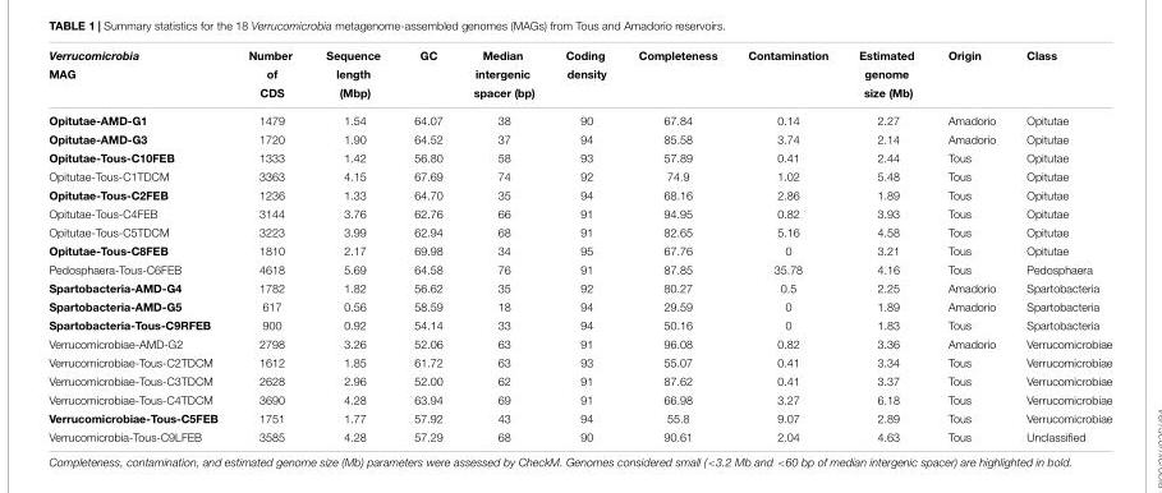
<table><thead><tr><td rowspan="3">Verrucomicrobia MAG</td><td rowspan="3">Number of CDS</td><td rowspan="3">Sequence length (Mbp)</td><td rowspan="3">GC</td><td rowspan="3">Median intergenic spacer (bp)</td><td rowspan="3">Coding density</td><td rowspan="3">Completeness</td><td rowspan="3">Contamination</td><td rowspan="3">Estimated genome size (Mb)</td><td rowspan="3">Origin</td><td rowspan="3">Class</td></tr><tr></tr><tr></tr></thead><tbody><tr><td>Opitutae-AMD-G1</td><td>1479</td><td>1.54</td><td>64.07</td><td>38</td><td>90</td><td>67.84</td><td>0.14</td><td>2.27</td><td>Amadorio</td><td>Opitutae</td></tr><tr><td>Opitutae-AMD-G3</td><td>1720</td><td>1.90</td><td>64.52</td><td>37</td><td>94</td><td>85.58</td><td>3.74</td><td>2.14</td><td>Amadorio</td><td>Opitutae</td></tr><tr><td>Opitutae-Tous-C10FEB</td><td>1333</td><td>1.42</td><td>56.80</td><td>58</td><td>93</td><td>57.89</td><td>0.41</td><td>2.44</td><td>Tous</td><td>Opitutae</td></tr><tr><td>Opitutae-Tous-C1TDCM</td><td>3363</td><td>4.15</td><td>67.69</td><td>74</td><td>92</td><td>74.9</td><td>1.02</td><td>5.48</td><td>Tous</td><td>Opitutae</td></tr><tr><td>Opitutae-Tous-C2FEB</td><td>1236</td><td>1.33</td><td>64.70</td><td>35</td><td>94</td><td>68.16</td><td>2.86</td><td>1.89</td><td>Tous</td><td>Opitutae</td></tr><tr><td>Opitutae-Tous-C4FEB</td><td>3144</td><td>3.76</td><td>62.76</td><td>66</td><td>91</td><td>94.95</td><td>0.82</td><td>3.93</td><td>Tous</td><td>Opitutae</td></tr><tr><td>Opitutae-Tous-C5TDCM</td><td>3223</td><td>3.99</td><td>62.94</td><td>68</td><td>91</td><td>82.65</td><td>5.16</td><td>4.58</td><td>Tous</td><td>Opitutae</td></tr><tr><td>Opitutae-Tous-C8FEB</td><td>1810</td><td>2.17</td><td>69.98</td><td>34</td><td>95</td><td>67.76</td><td>0</td><td>3.21</td><td>Tous</td><td>Opitutae</td></tr><tr><td>Pedosphaera-Tous-C6FEB</td><td>4618</td><td>5.69</td><td>64.58</td><td>76</td><td>91</td><td>87.85</td><td>35.78</td><td>4.16</td><td>Tous</td><td>Pedosphaera</td></tr><tr><td>Spartobacteria-AMD-G4</td><td>1782</td><td>1.82</td><td>56.62</td><td>35</td><td>92</td><td>80.27</td><td>0.5</td><td>2.25</td><td>Amadorio</td><td>Spartobacteria</td></tr><tr><td>Spartobacteria-AMD-G5</td><td>617</td><td>0.56</td><td>58.59</td><td>18</td><td>94</td><td>29.59</td><td>0</td><td>1.89</td><td>Amadorio</td><td>Spartobacteria</td></tr><tr><td>Spartobacteria-Tous-C9RFEB</td><td>900</td><td>0.92</td><td>54.14</td><td>33</td><td>94</td><td>50.16</td><td>0</td><td>1.83</td><td>Tous</td><td>Spartobacteria</td></tr><tr><td>Verrucomicrobiae-AMD-G2</td><td>2798</td><td>3.26</td><td>52.06</td><td>63</td><td>91</td><td>96.08</td><td>0.82</td><td>3.36</td><td>Amadorio</td><td>Verrucomicrobiae</td></tr><tr><td>Verrucomicrobiae-Tous-C2TDCM</td><td>1612</td><td>1.85</td><td>61.72</td><td>63</td><td>93</td><td>55.07</td><td>0.41</td><td>3.34</td><td>Tous</td><td>Verrucomicrobiae</td></tr><tr><td>Verrucomicrobiae-Tous-C3TDCM</td><td>2628</td><td>2.96</td><td>52.00</td><td>62</td><td>91</td><td>87.62</td><td>0.41</td><td>3.37</td><td>Tous</td><td>Verrucomicrobiae</td></tr><tr><td>Verrucomicrobiae-Tous-C4TDCM</td><td>3690</td><td>4.28</td><td>63.94</td><td>69</td><td>91</td><td>66.98</td><td>3.27</td><td>6.18</td><td>Tous</td><td>Verrucomicrobiae</td></tr><tr><td>Verrucomicrobiae-Tous-C5FEB</td><td>1751</td><td>1.77</td><td>57.92</td><td>43</td><td>94</td><td>55.8</td><td>9.07</td><td>2.89</td><td>Tous</td><td>Verrucomicrobiae</td></tr><tr><td>Verrucomicrobia-Tous-C9LFEB</td><td>3585</td><td>4.28</td><td>57.29</td><td>68</td><td>90</td><td>90.61</td><td>2.04</td><td>4.63</td><td>Tous</td><td>Unclassified</td></tr></tbody></table>